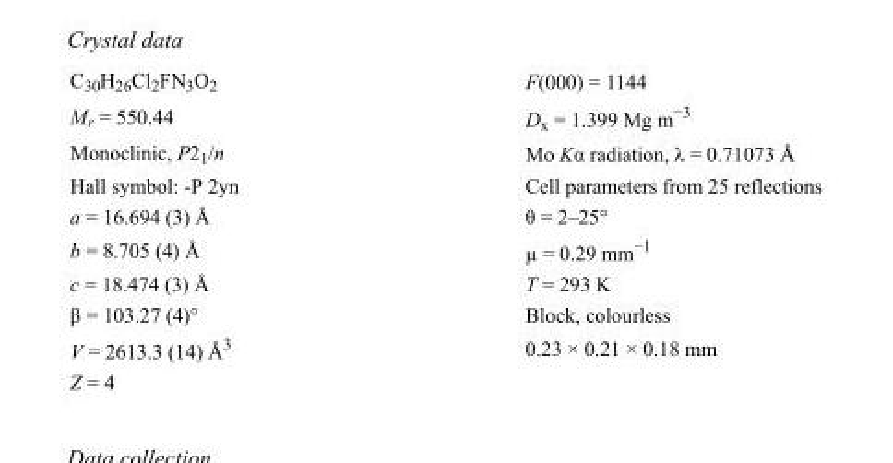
<table><tbody><tr><td>C<sub>30</sub>H<sub>26</sub>Cl<sub>2</sub>FN<sub>3</sub>O<sub>2</sub></td><td>F(000) = 1144</td></tr><tr><td>M<sub>r</sub> = 550.44</td><td>D<sub>x</sub> = 1.399 Mg m<sup>−3</sup></td></tr><tr><td>Monoclinic, P2<sub>1</sub>/n</td><td>Mo Kα radiation, λ = 0.71073 Å</td></tr><tr><td>Hall symbol: -P 2yn</td><td>Cell parameters from 25 reflections</td></tr><tr><td>a = 16.694 (3) Å</td><td>θ = 2–25°</td></tr><tr><td>b = 8.705 (4) Å</td><td>µ = 0.29 mm<sup>−1</sup></td></tr><tr><td>c = 18.474 (3) Å</td><td>T = 293 K</td></tr><tr><td>β = 103.27 (4)°</td><td>Block, colourless</td></tr><tr><td>V = 2613.3 (14) Å<sup>3</sup></td><td>0.23 × 0.21 × 0.18 mm</td></tr><tr><td>Z = 4</td><td></td></tr></tbody></table>